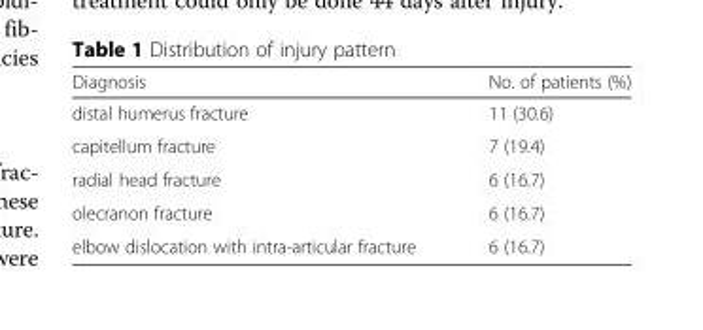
<table><thead><tr><td>Diagnosis</td><td>No. of patients (%)</td></tr></thead><tbody><tr><td>distal humerus fracture</td><td>11 (30.6)</td></tr><tr><td>capitellum fracture</td><td>7 (19.4)</td></tr><tr><td>radial head fracture</td><td>6 (16.7)</td></tr><tr><td>olecranon fracture</td><td>6 (16.7)</td></tr><tr><td>elbow dislocation with intra-articular fracture</td><td>6 (16.7)</td></tr></tbody></table>